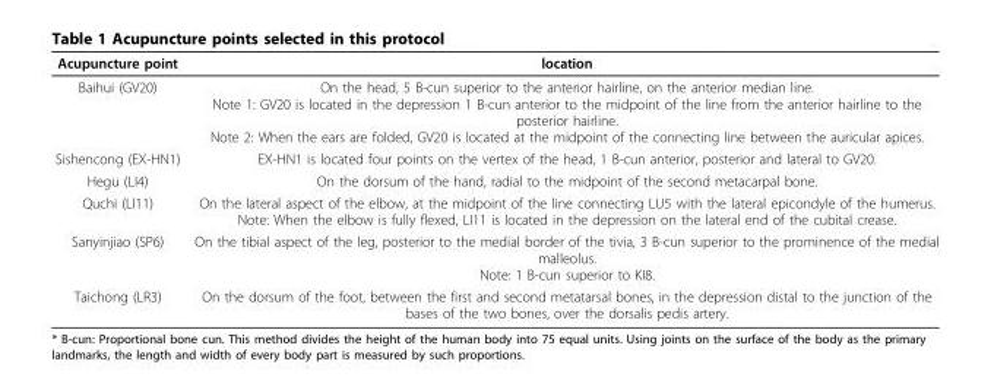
<table><thead><tr><td>Acupuncture point</td><td>location</td></tr></thead><tbody><tr><td>Baihui (GV20)</td><td>On the head, 5 B-cun superior to the anterior hairline, on the anterior median line. Note 1: GV20 is located in the depression 1 B-cun anterior to the midpoint of the line from the anterior hairline to the posterior hairline. Note 2: When the ears are folded, GV20 is located at the midpoint of the connecting line between the auricular apices.</td></tr><tr><td>Sishencong (EX-HN1)</td><td>EX-HN1 is located four points on the vertex of the head, 1 B-cun anterior, posterior and lateral to GV20.</td></tr><tr><td>Hegu (LI4)</td><td>On the dorsum of the hand, radial to the midpoint of the second metacarpal bone.</td></tr><tr><td>Quchi (LI11)</td><td>On the lateral aspect of the elbow, at the midpoint of the line connecting LU5 with the lateral epicondyle of the humerus. Note: When the elbow is fully flexed, LI11 is located in the depression on the lateral end of the cubital crease.</td></tr><tr><td>Sanyinjiao (SP6)</td><td>On the tibial aspect of the leg, posterior to the medial border of the tivia, 3 B-cun superior to the prominence of the medial malleolus. Note: 1 B-cun superior to KI8.</td></tr><tr><td>Taichong (LR3)</td><td>On the dorsum of the foot, between the first and second metatarsal bones, in the depression distal to the junction of the bases of the two bones, over the dorsalis pedis artery.</td></tr></tbody></table>